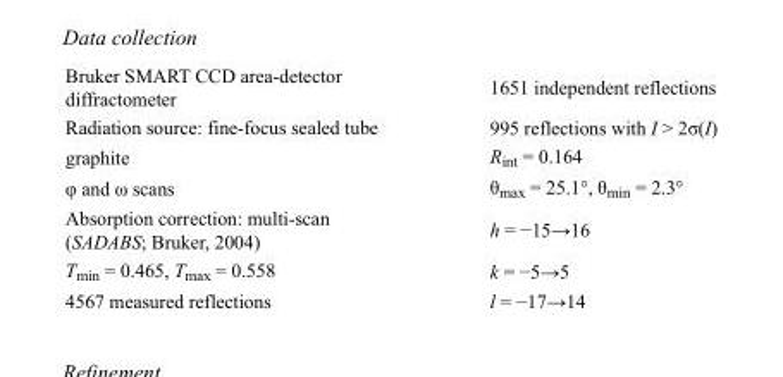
<table><tbody><tr><td>Bruker SMART CCD area-detector diffractometer</td><td>1651 independent reflections</td></tr><tr><td>Radiation source: fine-focus sealed tube</td><td>995 reflections with I &gt; 2σ(I)</td></tr><tr><td>graphite</td><td>R<sub>int</sub> = 0.164</td></tr><tr><td>φ and ω scans</td><td>θ<sub>max</sub> = 25.1°, θ<sub>min</sub> = 2.3°</td></tr><tr><td>Absorption correction: multi-scan (SADABS; Bruker, 2004)</td><td>h = −15→16</td></tr><tr><td>T<sub>min</sub> = 0.465, T<sub>max</sub> = 0.558</td><td>k = −5→5</td></tr><tr><td>4567 measured reflections</td><td>l = −17→14</td></tr></tbody></table>